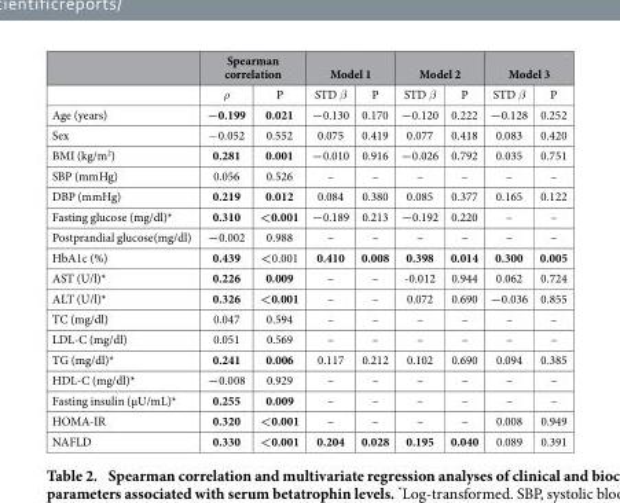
<table><thead><tr><td rowspan="2"></td><td colspan="2">Spearman correlation</td><td colspan="2">Model 1</td><td colspan="2">Model 2</td><td colspan="2">Model 3</td></tr><tr><td>ρ</td><td>P</td><td>STD β</td><td>P</td><td>STD β</td><td>P</td><td>STD β</td><td>P</td></tr></thead><tbody><tr><td>Age (years)</td><td>−0.199</td><td>0.021</td><td>−0.130</td><td>0.170</td><td>−0.120</td><td>0.222</td><td>−0.128</td><td>0.252</td></tr><tr><td>Sex</td><td>− 0.052</td><td>0.552</td><td>0.075</td><td>0.419</td><td>0.077</td><td>0.418</td><td>0.083</td><td>0.420</td></tr><tr><td>BMI (kg/m<sup>2</sup>)</td><td>0.281</td><td>0.001</td><td>−0.010</td><td>0.916</td><td>−0.026</td><td>0.792</td><td>0.035</td><td>0.751</td></tr><tr><td>SBP (mmHg)</td><td>0.056</td><td>0.526</td><td>–</td><td>–</td><td>–</td><td>–</td><td>–</td><td>–</td></tr><tr><td>DBP (mmHg)</td><td>0.219</td><td>0.012</td><td>0.084</td><td>0.380</td><td>0.085</td><td>0.377</td><td>0.165</td><td>0.122</td></tr><tr><td>Fasting glucose (mg/dl)*</td><td>0.310</td><td>&lt;0.001</td><td>−0.189</td><td>0.213</td><td>−0.192</td><td>0.220</td><td>–</td><td>–</td></tr><tr><td>Postprandial glucose(mg/dl)</td><td>−0.002</td><td>0.988</td><td>–</td><td>–</td><td>–</td><td>–</td><td>–</td><td>–</td></tr><tr><td>HbA1c (%)</td><td>0.439</td><td>&lt;0.001</td><td>0.410</td><td>0.008</td><td>0.398</td><td>0.014</td><td>0.300</td><td>0.005</td></tr><tr><td>AST (U/l)*</td><td>0.226</td><td>0.009</td><td>–</td><td>–</td><td>-0.012</td><td>0.944</td><td>0.062</td><td>0.724</td></tr><tr><td>ALT (U/l)*</td><td>0.326</td><td>&lt;0.001</td><td>–</td><td>–</td><td>0.072</td><td>0.690</td><td>−0.036</td><td>0.855</td></tr><tr><td>TC (mg/dl)</td><td>0.047</td><td>0.594</td><td>–</td><td>–</td><td>–</td><td>–</td><td>–</td><td>–</td></tr><tr><td>LDL-C (mg/dl)</td><td>0.051</td><td>0.569</td><td>–</td><td>–</td><td>–</td><td>–</td><td>–</td><td>–</td></tr><tr><td>TG (mg/dl)*</td><td>0.241</td><td>0.006</td><td>0.117</td><td>0.212</td><td>0.102</td><td>0.690</td><td>0.094</td><td>0.385</td></tr><tr><td>HDL-C (mg/dl)*</td><td>−0.008</td><td>0.929</td><td>–</td><td>–</td><td>–</td><td>–</td><td>–</td><td>–</td></tr><tr><td>Fasting insulin (μU/mL)*</td><td>0.255</td><td>0.009</td><td>–</td><td>–</td><td>–</td><td>–</td><td>–</td><td>–</td></tr><tr><td>HOMA-IR</td><td>0.320</td><td>&lt;0.001</td><td>–</td><td>–</td><td>–</td><td>–</td><td>0.008</td><td>0.949</td></tr><tr><td>NAFLD</td><td>0.330</td><td>&lt;0.001</td><td>0.204</td><td>0.028</td><td>0.195</td><td>0.040</td><td>0.089</td><td>0.391</td></tr></tbody></table>